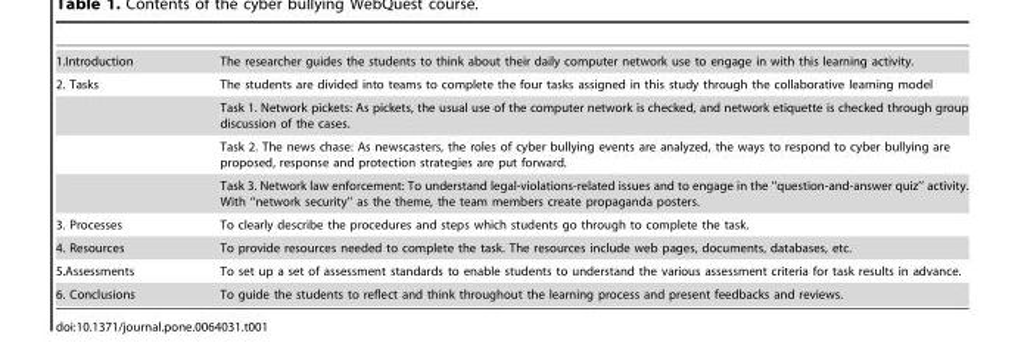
<table><tbody><tr><td>1.Introduction</td><td>The researcher guides the students to think about their daily computer network use to engage in with this learning activity.</td></tr><tr><td rowspan="4">2. Tasks</td><td>The students are divided into teams to complete the four tasks assigned in this study through the collaborative learning model</td></tr><tr><td>Task 1. Network pickets: As pickets, the usual use of the computer network is checked, and network etiquette is checked through group discussion of the cases.</td></tr><tr><td>Task 2. The news chase: As newscasters, the roles of cyber bullying events are analyzed, the ways to respond to cyber bullying are proposed, response and protection strategies are put forward.</td></tr><tr><td>Task 3. Network law enforcement: To understand legal-violations-related issues and to engage in the ‘‘question-and-answer quiz’’ activity. With ‘‘network security’’ as the theme, the team members create propaganda posters.</td></tr><tr><td>3. Processes</td><td>To clearly describe the procedures and steps which students go through to complete the task.</td></tr><tr><td>4. Resources</td><td>To provide resources needed to complete the task. The resources include web pages, documents, databases, etc.</td></tr><tr><td>5.Assessments</td><td>To set up a set of assessment standards to enable students to understand the various assessment criteria for task results in advance.</td></tr><tr><td>6. Conclusions</td><td>To guide the students to reflect and think throughout the learning process and present feedbacks and reviews.</td></tr></tbody></table>